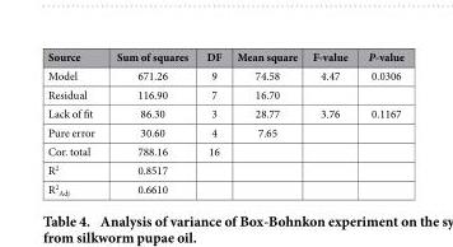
<table><thead><tr><td>Source</td><td>Sum of squares</td><td>DF</td><td>Mean square</td><td>F-value</td><td>P-value</td></tr></thead><tbody><tr><td>Model</td><td>671.26</td><td>9</td><td>74.58</td><td>4.47</td><td>0.0306</td></tr><tr><td>Residual</td><td>116.90</td><td>7</td><td>16.70</td><td></td><td></td></tr><tr><td>Lack of fit</td><td>86.30</td><td>3</td><td>28.77</td><td>3.76</td><td>0.1167</td></tr><tr><td>Pure error</td><td>30.60</td><td>4</td><td>7.65</td><td></td><td></td></tr><tr><td>Cor. total</td><td>788.16</td><td>16</td><td></td><td></td><td></td></tr><tr><td>R<sup>2</sup></td><td>0.8517</td><td></td><td></td><td></td><td></td></tr><tr><td>R<sup>2</sup> <sub>Adj</sub></td><td>0.6610</td><td></td><td></td><td></td><td></td></tr></tbody></table>